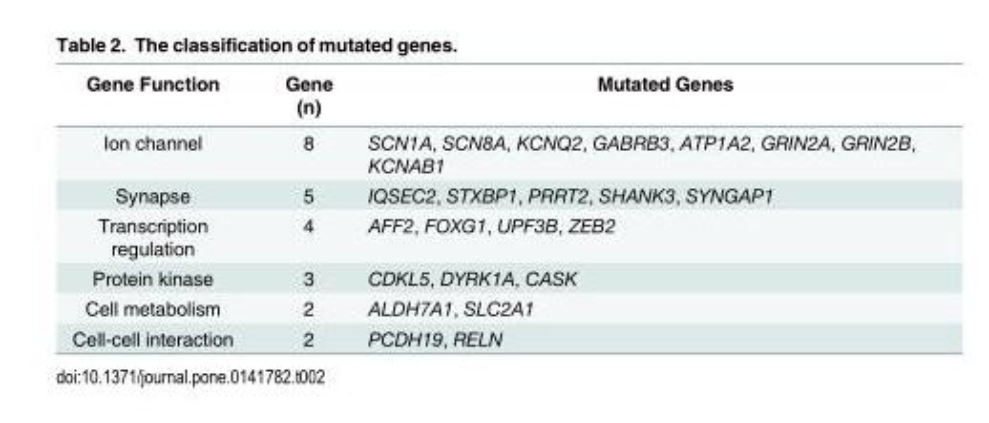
<table><thead><tr><td>Gene Function</td><td>Gene (n)</td><td>Mutated Genes</td></tr></thead><tbody><tr><td>Ion channel</td><td>8</td><td>SCN1A, SCN8A, KCNQ2, GABRB3, ATP1A2, GRIN2A, GRIN2B, KCNAB1</td></tr><tr><td>Synapse</td><td>5</td><td>IQSEC2, STXBP1, PRRT2, SHANK3, SYNGAP1</td></tr><tr><td>Transcription regulation</td><td>4</td><td>AFF2, FOXG1, UPF3B, ZEB2</td></tr><tr><td>Protein kinase</td><td>3</td><td>CDKL5, DYRK1A, CASK</td></tr><tr><td>Cell metabolism</td><td>2</td><td>ALDH7A1, SLC2A1</td></tr><tr><td>Cell-cell interaction</td><td>2</td><td>PCDH19, RELN</td></tr></tbody></table>